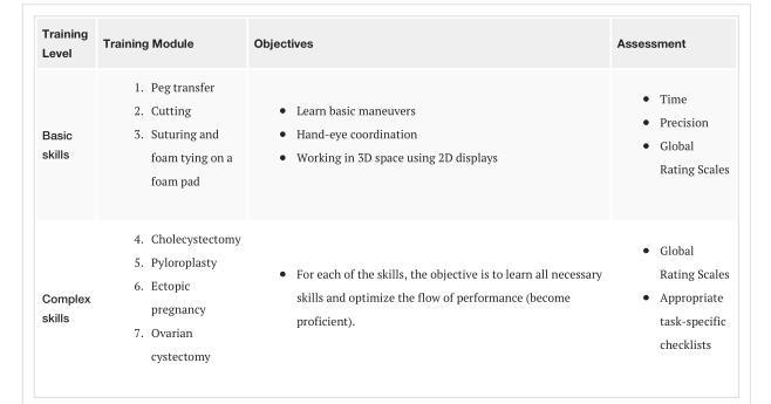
<table><tbody><tr><td>Level</td><td>Training Module</td><td>Objectives</td><td>Assessment</td></tr><tr><td>Basic skills</td><td>1. Peg transfer 2. Cutting 3. Suturing and foam tying on a foam pad</td><td>Learn basic maneuvers Hand-eye coordination Working in 3D space using 2D displays</td><td>Time Precision Global Rating Scales</td></tr><tr><td>Complex skills</td><td>4. Cholecystectomy 5. Pyloroplasty 6. Ectopic pregnancy 7. Ovarian cystectomy</td><td>For each of the skills, the objective is to learn all necessary skills and optimize the flow of performance (become proficient).</td><td>Global Rating Scales Appropriate task-specific checklists</td></tr></tbody></table>